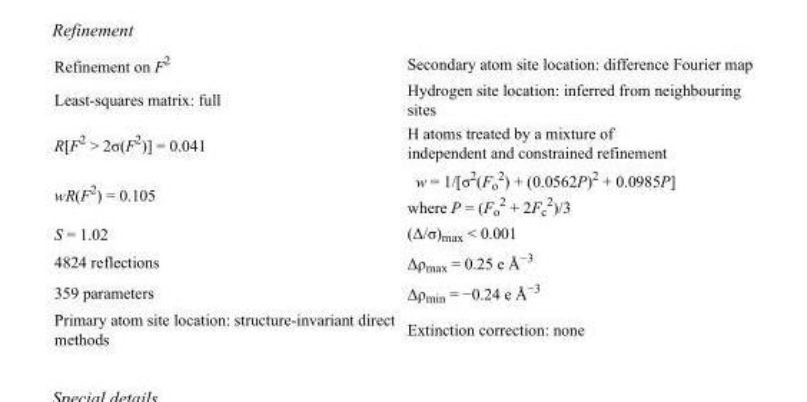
<table><tbody><tr><td>Refinement on F<sup>2</sup></td><td>Secondary atom site location: difference Fourier map</td></tr><tr><td>Least-squares matrix: full</td><td>Hydrogen site location: inferred from neighbouring sites</td></tr><tr><td>R[F<sup>2</sup> &gt; 2σ(F<sup>2</sup>)] = 0.041</td><td>H atoms treated by a mixture of independent and constrained refinement</td></tr><tr><td>wR(F<sup>2</sup>) = 0.105</td><td>w = 1/[σ<sup>2</sup>(F<sub>o</sub> <sup>2</sup>) + (0.0562P)<sup>2</sup> + 0.0985P] where P = (F<sub>o</sub> <sup>2</sup> + 2F<sub>c</sub> <sup>2</sup>)/3</td></tr><tr><td>S = 1.02</td><td>(Δ/σ)<sub>max</sub> &lt; 0.001</td></tr><tr><td>4824 reflections</td><td>Δρ<sub>max</sub> = 0.25 e Å<sup>−3</sup></td></tr><tr><td>359 parameters</td><td>Δρ<sub>min</sub> = −0.24 e Å<sup>−3</sup></td></tr><tr><td>Primary atom site location: structure-invariant direct methods</td><td>Extinction correction: none</td></tr></tbody></table>